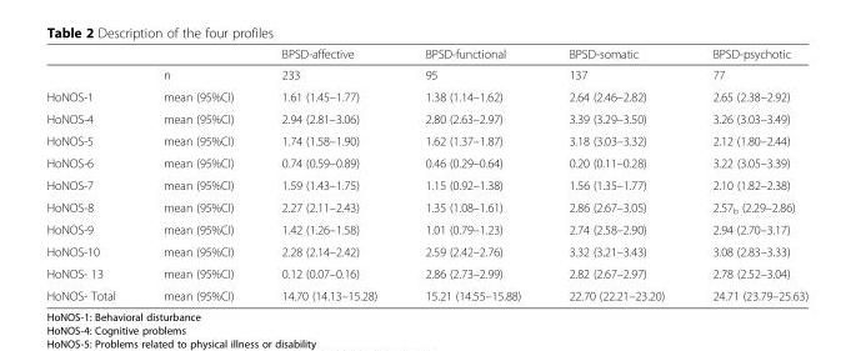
<table><thead><tr><td></td><td></td><td>BPSD-affective</td><td>BPSD-functional</td><td>BPSD-somatic</td><td>BPSD-psychotic</td></tr></thead><tbody><tr><td></td><td>n</td><td>233</td><td>95</td><td>137</td><td>77</td></tr><tr><td>HoNOS-1</td><td>mean (95%CI)</td><td>1.61 (1.45–1.77)</td><td>1.38 (1.14–1.62)</td><td>2.64 (2.46–2.82)</td><td>2.65 (2.38–2.92)</td></tr><tr><td>HoNOS-4</td><td>mean (95%CI)</td><td>2.94 (2.81–3.06)</td><td>2.80 (2.63–2.97)</td><td>3.39 (3.29–3.50)</td><td>3.26 (3.03–3.49)</td></tr><tr><td>HoNOS-5</td><td>mean (95%CI)</td><td>1.74 (1.58–1.90)</td><td>1.62 (1.37–1.87)</td><td>3.18 (3.03–3.32)</td><td>2.12 (1.80–2.44)</td></tr><tr><td>HoNOS-6</td><td>mean (95%CI)</td><td>0.74 (0.59–0.89)</td><td>0.46 (0.29–0.64)</td><td>0.20 (0.11–0.28)</td><td>3.22 (3.05–3.39)</td></tr><tr><td>HoNOS-7</td><td>mean (95%CI)</td><td>1.59 (1.43–1.75)</td><td>1.15 (0.92–1.38)</td><td>1.56 (1.35–1.77)</td><td>2.10 (1.82–2.38)</td></tr><tr><td>HoNOS-8</td><td>mean (95%CI)</td><td>2.27 (2.11–2.43)</td><td>1.35 (1.08–1.61)</td><td>2.86 (2.67–3.05)</td><td>2.57<sub>b</sub> (2.29–2.86)</td></tr><tr><td>HoNOS-9</td><td>mean (95%CI)</td><td>1.42 (1.26–1.58)</td><td>1.01 (0.79–1.23)</td><td>2.74 (2.58–2.90)</td><td>2.94 (2.70–3.17)</td></tr><tr><td>HoNOS-10</td><td>mean (95%CI)</td><td>2.28 (2.14–2.42)</td><td>2.59 (2.42–2.76)</td><td>3.32 (3.21–3.43)</td><td>3.08 (2.83–3.33)</td></tr><tr><td>HoNOS- 13</td><td>mean (95%CI)</td><td>0.12 (0.07–0.16)</td><td>2.86 (2.73–2.99)</td><td>2.82 (2.67–2.97)</td><td>2.78 (2.52–3.04)</td></tr><tr><td>HoNOS- Total</td><td>mean (95%CI)</td><td>14.70 (14.13–15.28)</td><td>15.21 (14.55–15.88)</td><td>22.70 (22.21–23.20)</td><td>24.71 (23.79–25.63)</td></tr></tbody></table>